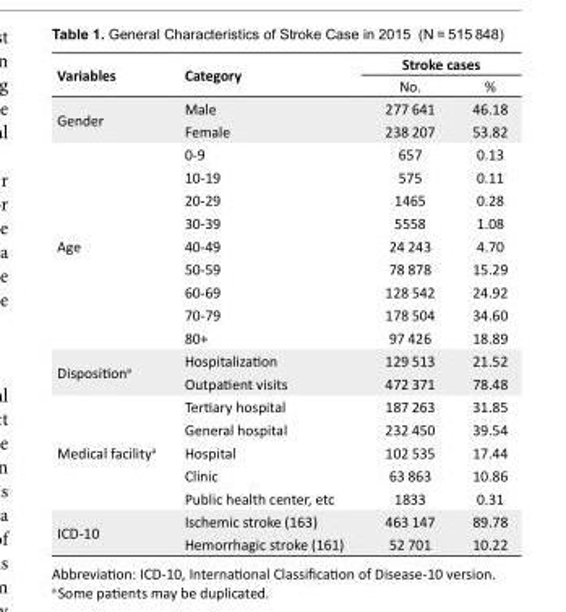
<table><tbody><tr><td rowspan="2">Variables</td><td rowspan="2">Category</td><td colspan="2">Stroke cases</td></tr><tr><td>No.</td><td>%</td></tr><tr><td rowspan="2">Gender</td><td>Male</td><td>277 641</td><td>46.18</td></tr><tr><td>Female</td><td>238 207</td><td>53.82</td></tr><tr><td rowspan="9">Age</td><td>0-9</td><td>657</td><td>0.13</td></tr><tr><td>10-19</td><td>575</td><td>0.11</td></tr><tr><td>20-29</td><td>1465</td><td>0.28</td></tr><tr><td>30-39</td><td>5558</td><td>1.08</td></tr><tr><td>40-49</td><td>24 243</td><td>4.70</td></tr><tr><td>50-59</td><td>78 878</td><td>15.29</td></tr><tr><td>60-69</td><td>128 542</td><td>24.92</td></tr><tr><td>70-79</td><td>178 504</td><td>34.60</td></tr><tr><td>80+</td><td>97 426</td><td>18.89</td></tr><tr><td rowspan="2">Disposition<sup>a</sup></td><td>Hospitalization</td><td>129 513</td><td>21.52</td></tr><tr><td>Outpatient visits</td><td>472 371</td><td>78.48</td></tr><tr><td rowspan="5">Medical facility<sup>a</sup></td><td>Tertiary hospital</td><td>187 263</td><td>31.85</td></tr><tr><td>General hospital</td><td>232 450</td><td>39.54</td></tr><tr><td>Hospital</td><td>102 535</td><td>17.44</td></tr><tr><td>Clinic</td><td>63 863</td><td>10.86</td></tr><tr><td>Public health center, etc</td><td>1833</td><td>0.31</td></tr><tr><td rowspan="2">ICD-10</td><td>Ischemic stroke (163)</td><td>463 147</td><td>89.78</td></tr><tr><td>Hemorrhagic stroke (161)</td><td>52 701</td><td>10.22</td></tr></tbody></table>